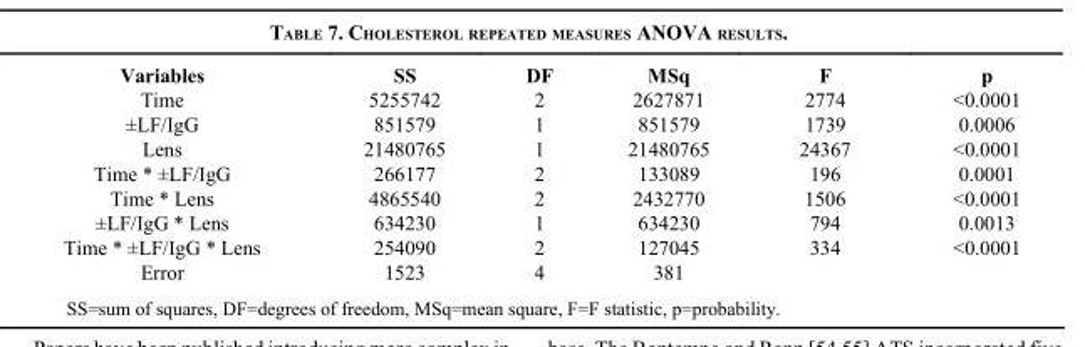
<table><thead><tr><td>Variables</td><td>SS</td><td>DF</td><td>MSq</td><td>F</td><td>p</td></tr></thead><tbody><tr><td>Time</td><td>5255742</td><td>2</td><td>2627871</td><td>2774</td><td>&lt;0.0001</td></tr><tr><td>±LF/IgG</td><td>851579</td><td>1</td><td>851579</td><td>1739</td><td>0.0006</td></tr><tr><td>Lens</td><td>21480765</td><td>1</td><td>21480765</td><td>24367</td><td>&lt;0.0001</td></tr><tr><td>Time * ±LF/IgG</td><td>266177</td><td>2</td><td>133089</td><td>196</td><td>0.0001</td></tr><tr><td>Time * Lens</td><td>4865540</td><td>2</td><td>2432770</td><td>1506</td><td>&lt;0.0001</td></tr><tr><td>±LF/IgG * Lens</td><td>634230</td><td>1</td><td>634230</td><td>794</td><td>0.0013</td></tr><tr><td>Time * ±LF/IgG * Lens</td><td>254090</td><td>2</td><td>127045</td><td>334</td><td>&lt;0.0001</td></tr><tr><td>Error</td><td>1523</td><td>4</td><td>381</td><td></td><td></td></tr></tbody></table>